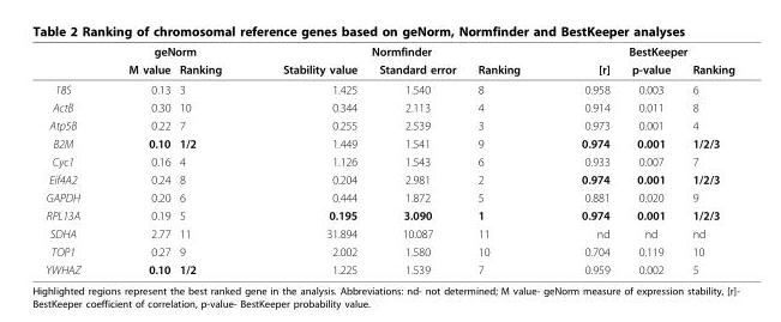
<table><thead><tr><td rowspan="2"></td><td colspan="2">geNorm</td><td colspan="3">Normfinder</td><td colspan="3">BestKeeper</td></tr><tr><td>M value</td><td>Ranking</td><td>Stability value</td><td>Standard error</td><td>Ranking</td><td>[r]</td><td>p-value</td><td>Ranking</td></tr></thead><tbody><tr><td>18S</td><td>0.13</td><td>3</td><td>1.425</td><td>1.540</td><td>8</td><td>0.958</td><td>0.003</td><td>6</td></tr><tr><td>ActB</td><td>0.30</td><td>10</td><td>0.344</td><td>2.113</td><td>4</td><td>0.914</td><td>0.011</td><td>8</td></tr><tr><td>Atp5B</td><td>0.22</td><td>7</td><td>0.255</td><td>2.539</td><td>3</td><td>0.973</td><td>0.001</td><td>4</td></tr><tr><td>B2M</td><td>0.10</td><td>1/2</td><td>1.449</td><td>1.541</td><td>9</td><td>0.974</td><td>0.001</td><td>1/2/3</td></tr><tr><td>Cyc1</td><td>0.16</td><td>4</td><td>1.126</td><td>1.543</td><td>6</td><td>0.933</td><td>0.007</td><td>7</td></tr><tr><td>Eif4A2</td><td>0.24</td><td>8</td><td>0.204</td><td>2.981</td><td>2</td><td>0.974</td><td>0.001</td><td>1/2/3</td></tr><tr><td>GAPDH</td><td>0.20</td><td>6</td><td>0.444</td><td>1.872</td><td>5</td><td>0.881</td><td>0.020</td><td>9</td></tr><tr><td>RPL13A</td><td>0.19</td><td>5</td><td>0.195</td><td>3.090</td><td>1</td><td>0.974</td><td>0.001</td><td>1/2/3</td></tr><tr><td>SDHA</td><td>2.77</td><td>11</td><td>31.894</td><td>10.087</td><td>11</td><td>nd</td><td>nd</td><td>nd</td></tr><tr><td>TOP1</td><td>0.27</td><td>9</td><td>2.002</td><td>1.580</td><td>10</td><td>0.704</td><td>0.119</td><td>10</td></tr><tr><td>YWHAZ</td><td>0.10</td><td>1/2</td><td>1.225</td><td>1.539</td><td>7</td><td>0.959</td><td>0.002</td><td>5</td></tr></tbody></table>